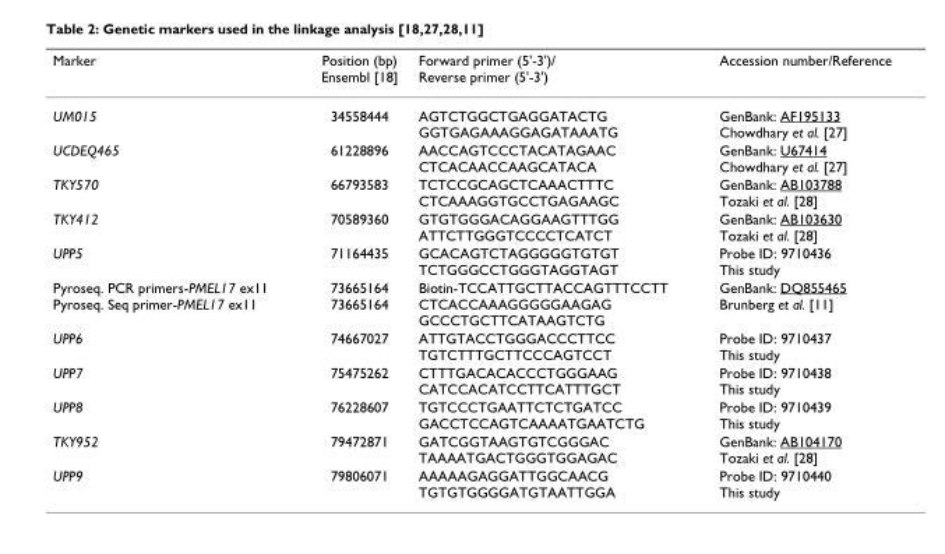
<table><thead><tr><td>Marker</td><td>Position (bp) Ensembl [18]</td><td>Forward primer (5&#x27;-3&#x27;)/ Reverse primer (5&#x27;-3&#x27;)</td><td>Accession number/Reference</td></tr></thead><tbody><tr><td>UM015</td><td>34558444</td><td>AGTCTGGCTGAGGATACTG GGTGAGAAAGGAGATAAATG</td><td>GenBank: AF195133 Chowdhary et al. [27]</td></tr><tr><td>UCDEQ465</td><td>61228896</td><td>AACCAGTCCCTACATAGAAC CTCACAACCAAGCATACA</td><td>GenBank: U67414 Chowdhary et al. [27]</td></tr><tr><td>TKY570</td><td>66793583</td><td>TCTCCGCAGCTCAAACTTTC CTCAAAGGTGCCTGAGAAGC</td><td>GenBank: AB103788 Tozaki et al. [28]</td></tr><tr><td>TKY412</td><td>70589360</td><td>GTGTGGGACAGGAAGTTTGG ATTCTTGGGTCCCCTCATCT</td><td>GenBank: AB103630 Tozaki et al. [28]</td></tr><tr><td>UPP5</td><td>71164435</td><td>GCACAGTCTAGGGGGTGTGT TCTGGGCCTGGGTAGGTAGT</td><td>Probe ID: 9710436 This study</td></tr><tr><td>Pyroseq. PCR primers-PMEL17 ex11 Pyroseq. Seq primer-PMEL17 ex11</td><td>73665164 73665164</td><td>Biotin-TCCATTGCTTACCAGTTTCCTT CTCACCAAAGGGGGAAGAG GCCCTGCTTCATAAGTCTG</td><td>GenBank: DQ855465 Brunberg et al. [11]</td></tr><tr><td>UPP6</td><td>74667027</td><td>ATTGTACCTGGGACCCTTCC TGTCTTTGCTTCCCAGTCCT</td><td>Probe ID: 9710437 This study</td></tr><tr><td>UPP7</td><td>75475262</td><td>CTTTGACACACCCTGGGAAG CATCCACATCCTTCATTTGCT</td><td>Probe ID: 9710438 This study</td></tr><tr><td>UPP8</td><td>76228607</td><td>TGTCCCTGAATTCTCTGATCC GACCTCCAGTCAAAATGAATCTG</td><td>Probe ID: 9710439 This study</td></tr><tr><td>TKY952</td><td>79472871</td><td>GATCGGTAAGTGTCGGGAC TAAAATGACTGGGTGGAGAC</td><td>GenBank: AB104170 Tozaki et al. [28]</td></tr><tr><td>UPP9</td><td>79806071</td><td>AAAAAGAGGATTGGCAACG TGTGTGGGGATGTAATTGGA</td><td>Probe ID: 9710440 This study</td></tr></tbody></table>